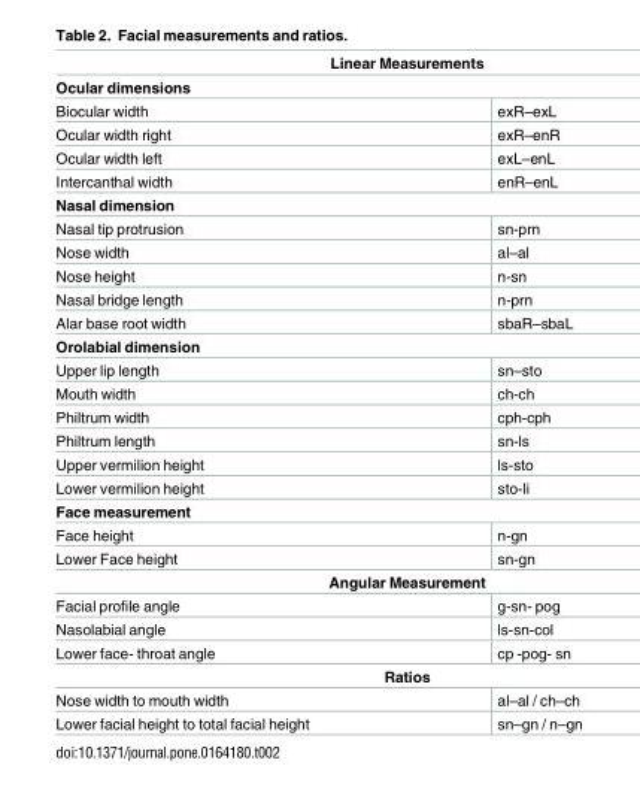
<table><thead><tr><td rowspan="2" colspan="2">Linear Measurements Ocular dimensions</td></tr><tr></tr><tr><td>Biocular width</td><td>exR–exL</td></tr></thead><tbody><tr><td>Ocular width right</td><td>exR–enR</td></tr><tr><td>Ocular width left</td><td>exL–enL</td></tr><tr><td>Intercanthal width</td><td>enR–enL</td></tr><tr><td colspan="2">Nasal dimension</td></tr><tr><td>Nasal tip protrusion</td><td>sn-prn</td></tr><tr><td>Nose width</td><td>al–al</td></tr><tr><td>Nose height</td><td>n-sn</td></tr><tr><td>Nasal bridge length</td><td>n-prn</td></tr><tr><td>Alar base root width</td><td>sbaR–sbaL</td></tr><tr><td colspan="2">Orolabial dimension</td></tr><tr><td>Upper lip length</td><td>sn–sto</td></tr><tr><td>Mouth width</td><td>ch-ch</td></tr><tr><td>Philtrum width</td><td>cph-cph</td></tr><tr><td>Philtrum length</td><td>sn-ls</td></tr><tr><td>Upper vermilion height</td><td>ls-sto</td></tr><tr><td>Lower vermilion height</td><td>sto-li</td></tr><tr><td colspan="2">Face measurement</td></tr><tr><td>Face height</td><td>n-gn</td></tr><tr><td>Lower Face height</td><td>sn-gn</td></tr><tr><td colspan="2">Angular Measurement</td></tr><tr><td>Facial profile angle</td><td>g-sn- pog</td></tr><tr><td>Nasolabial angle</td><td>ls-sn-col</td></tr><tr><td>Lower face- throat angle</td><td>cp -pog- sn</td></tr><tr><td colspan="2">Ratios</td></tr><tr><td>Nose width to mouth width</td><td>al–al / ch–ch</td></tr><tr><td>Lower facial height to total facial height</td><td>sn–gn / n–gn</td></tr></tbody></table>